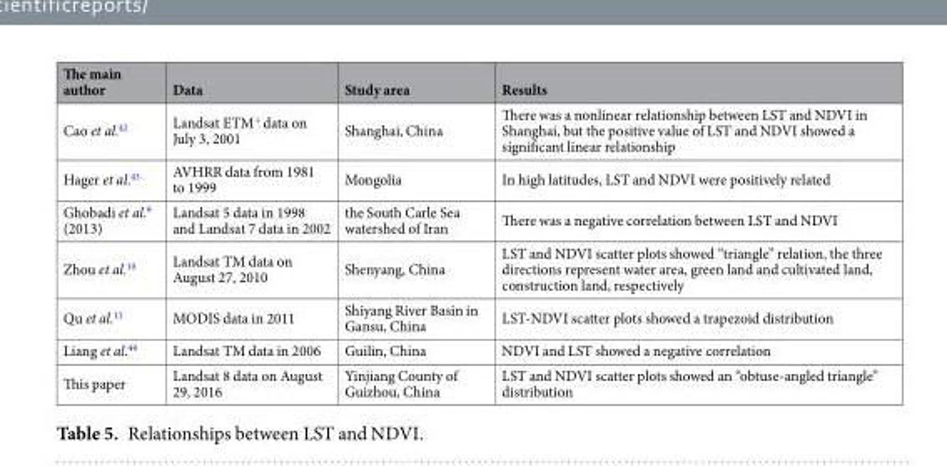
<table><thead><tr><td>The main author</td><td>Data</td><td>Study area</td><td>Results</td></tr></thead><tbody><tr><td>Cao et al.<sup>42</sup></td><td>Landsat ETM<sup>+</sup> data on July 3, 2001</td><td>Shanghai, China</td><td>There was a nonlinear relationship between LST and NDVI in Shanghai, but the positive value of LST and NDVI showed a significant linear relationship</td></tr><tr><td>Hager et al.<sup>43</sup></td><td>AVHRR data from 1981 to 1999</td><td>Mongolia</td><td>In high latitudes, LST and NDVI were positively related</td></tr><tr><td>Ghobadi et al.<sup>9</sup> (2013)</td><td>Landsat 5 data in 1998 and Landsat 7 data in 2002</td><td>the South Carle Sea watershed of Iran</td><td>There was a negative correlation between LST and NDVI</td></tr><tr><td>Zhou et al.<sup>10</sup></td><td>Landsat TM data on August 27, 2010</td><td>Shenyang, China</td><td>LST and NDVI scatter plots showed “triangle” relation, the three directions represent water area, green land and cultivated land, construction land, respectively</td></tr><tr><td>Qu et al.<sup>11</sup></td><td>MODIS data in 2011</td><td>Shiyang River Basin in Gansu, China</td><td>LST-NDVI scatter plots showed a trapezoid distribution</td></tr><tr><td>Liang et al.<sup>44</sup></td><td>Landsat TM data in 2006</td><td>Guilin, China</td><td>NDVI and LST showed a negative correlation</td></tr><tr><td>This paper</td><td>Landsat 8 data on August 29, 2016</td><td>Yinjiang County of Guizhou, China</td><td>LST and NDVI scatter plots showed an “obtuse-angled triangle” distribution</td></tr></tbody></table>